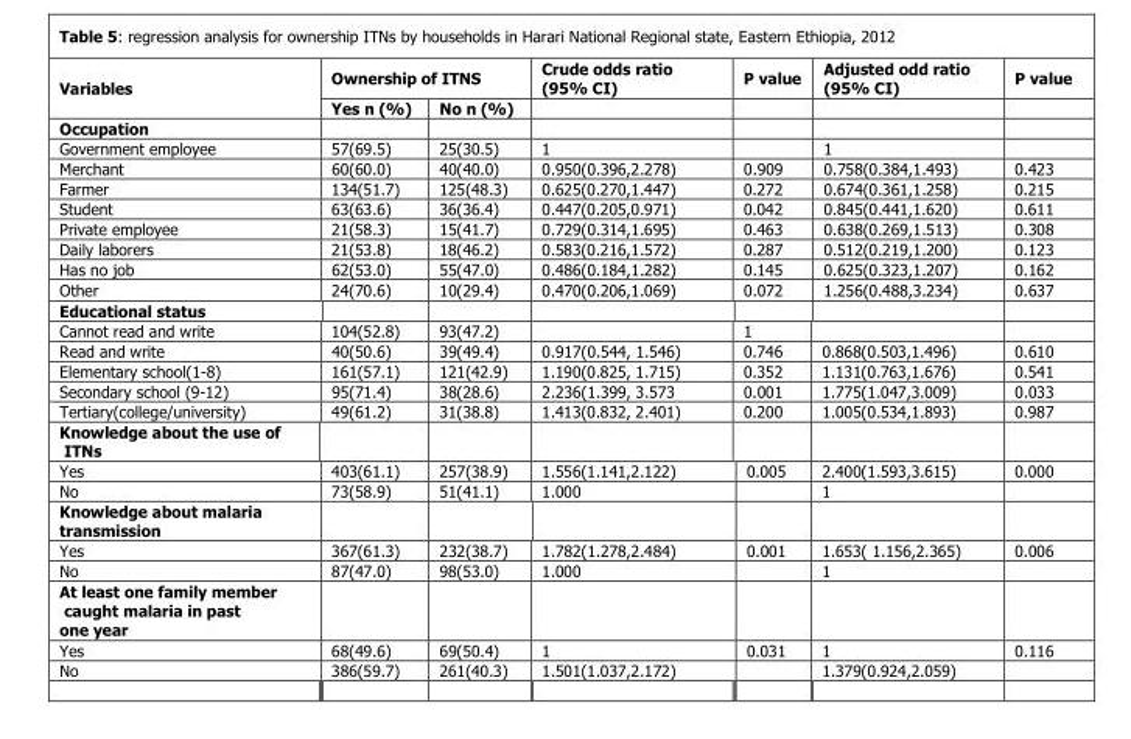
<table><thead><tr><td rowspan="2">Variables</td><td colspan="2">Ownership of ITNS</td><td rowspan="2">Crude odds ratio (95% CI)</td><td rowspan="2">P value</td><td rowspan="2">Adjusted odd ratio (95% CI)</td><td rowspan="2">P value</td></tr><tr><td>Yes n (%)</td><td>No n (%)</td></tr></thead><tbody><tr><td colspan="7">Occupation</td></tr><tr><td>Government employee</td><td>57(69.5)</td><td>25(30.5)</td><td>1</td><td></td><td>1</td><td></td></tr><tr><td>Merchant</td><td>60(60.0)</td><td>40(40.0)</td><td>0.950(0.396,2.278)</td><td>0.909</td><td>0.758(0.384,1.493)</td><td>0.423</td></tr><tr><td>Farmer</td><td>134(51.7)</td><td>125(48.3)</td><td>0.625(0.270,1.447)</td><td>0.272</td><td>0.674(0.361,1.258)</td><td>0.215</td></tr><tr><td>Student</td><td>63(63.6)</td><td>36(36.4)</td><td>0.447(0.205,0.971)</td><td>0.042</td><td>0.845(0.441,1.620)</td><td>0.611</td></tr><tr><td>Private employee</td><td>21(58.3)</td><td>15(41.7)</td><td>0.729(0.314,1.695)</td><td>0.463</td><td>0.638(0.269,1.513)</td><td>0.308</td></tr><tr><td>Daily laborers</td><td>21(53.8)</td><td>18(46.2)</td><td>0.583(0.216,1.572)</td><td>0.287</td><td>0.512(0.219,1.200)</td><td>0.123</td></tr><tr><td>Has no job</td><td>62(53.0)</td><td>55(47.0)</td><td>0.486(0.184,1.282)</td><td>0.145</td><td>0.625(0.323,1.207)</td><td>0.162</td></tr><tr><td>Other</td><td>24(70.6)</td><td>10(29.4)</td><td>0.470(0.206,1.069)</td><td>0.072</td><td>1.256(0.488,3.234)</td><td>0.637</td></tr><tr><td colspan="7">Educational status</td></tr><tr><td>Cannot read and write</td><td>104(52.8)</td><td>93(47.2)</td><td></td><td>1</td><td></td><td></td></tr><tr><td>Read and write</td><td>40(50.6)</td><td>39(49.4)</td><td>0.917(0.544, 1.546)</td><td>0.746</td><td>0.868(0.503,1.496)</td><td>0.610</td></tr><tr><td>Elementary school(1-8)</td><td>161(57.1)</td><td>121(42.9)</td><td>1.190(0.825, 1.715)</td><td>0.352</td><td>1.131(0.763,1.676)</td><td>0.541</td></tr><tr><td>Secondary school (9-12)</td><td>95(71.4)</td><td>38(28.6)</td><td>2.236(1.399, 3.573</td><td>0.001</td><td>1.775(1.047,3.009)</td><td>0.033</td></tr><tr><td>Tertiary(college/university)</td><td>49(61.2)</td><td>31(38.8)</td><td>1.413(0.832, 2.401)</td><td>0.200</td><td>1.005(0.534,1.893)</td><td>0.987</td></tr><tr><td colspan="7">Knowledge about the use of ITNs</td></tr><tr><td>Yes</td><td>403(61.1)</td><td>257(38.9)</td><td>1.556(1.141,2.122)</td><td>0.005</td><td>2.400(1.593,3.615)</td><td>0.000</td></tr><tr><td>No</td><td>73(58.9)</td><td>51(41.1)</td><td>1.000</td><td></td><td>1</td><td></td></tr><tr><td colspan="7">Knowledge about malaria transmission</td></tr><tr><td>Yes</td><td>367(61.3)</td><td>232(38.7)</td><td>1.782(1.278,2.484)</td><td>0.001</td><td>1.653( 1.156,2.365)</td><td>0.006</td></tr><tr><td>No</td><td>87(47.0)</td><td>98(53.0)</td><td>1.000</td><td></td><td>1</td><td></td></tr><tr><td colspan="7">At least one family member caught malaria in past one year</td></tr><tr><td>Yes</td><td>68(49.6)</td><td>69(50.4)</td><td>1</td><td>0.031</td><td>1</td><td>0.116</td></tr><tr><td>No</td><td>386(59.7)</td><td>261(40.3)</td><td>1.501(1.037,2.172)</td><td></td><td>1.379(0.924,2.059)</td><td></td></tr></tbody></table>